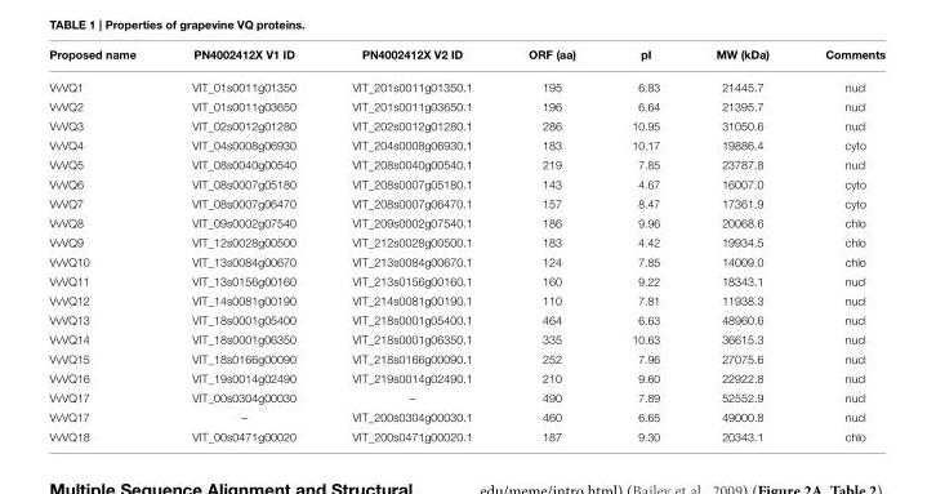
<table><thead><tr><td>Proposed name</td><td>PN4002412X V1 ID</td><td>PN4002412X V2 ID</td><td>ORF (aa)</td><td>pI</td><td>MW (kDa)</td><td>Comments</td></tr></thead><tbody><tr><td>VvVQ1</td><td>VIT_01s0011g01350</td><td>VIT_201s0011g01350.1</td><td>195</td><td>6.83</td><td>21445.7</td><td>nucl</td></tr><tr><td>VvVQ2</td><td>VIT_01s0011g03650</td><td>VIT_201s0011g03650.1</td><td>196</td><td>6.64</td><td>21395.7</td><td>nucl</td></tr><tr><td>VvVQ3</td><td>VIT_02s0012g01280</td><td>VIT_202s0012g01280.1</td><td>286</td><td>10.95</td><td>31050.6</td><td>nucl</td></tr><tr><td>VvVQ4</td><td>VIT_04s0008g06930</td><td>VIT_204s0008g06930.1</td><td>183</td><td>10.17</td><td>19886.4</td><td>cyto</td></tr><tr><td>VvVQ5</td><td>VIT_08s0040g00540</td><td>VIT_208s0040g00540.1</td><td>219</td><td>7.85</td><td>23787.8</td><td>nucl</td></tr><tr><td>VvVQ6</td><td>VIT_08s0007g05180</td><td>VIT_208s0007g05180.1</td><td>143</td><td>4.67</td><td>16007.0</td><td>cyto</td></tr><tr><td>VvVQ7</td><td>VIT_08s0007g06470</td><td>VIT_208s0007g06470.1</td><td>157</td><td>8.47</td><td>17361.9</td><td>cyto</td></tr><tr><td>VvVQ8</td><td>VIT_09s0002g07540</td><td>VIT_209s0002g07540.1</td><td>186</td><td>9.96</td><td>20068.6</td><td>chlo</td></tr><tr><td>VvVQ9</td><td>VIT_12s0028g00500</td><td>VIT_212s0028g00500.1</td><td>183</td><td>4.42</td><td>19934.5</td><td>chlo</td></tr><tr><td>VvVQ10</td><td>VIT_13s0084g00670</td><td>VIT_213s0084g00670.1</td><td>124</td><td>7.85</td><td>14009.0</td><td>chlo</td></tr><tr><td>VvVQ11</td><td>VIT_13s0156g00160</td><td>VIT_213s0156g00160.1</td><td>160</td><td>9.22</td><td>18343.1</td><td>nucl</td></tr><tr><td>VvVQ12</td><td>VIT_14s0081g00190</td><td>VIT_214s0081g00190.1</td><td>110</td><td>7.81</td><td>11938.3</td><td>nucl</td></tr><tr><td>VvVQ13</td><td>VIT_18s0001g05400</td><td>VIT_218s0001g05400.1</td><td>464</td><td>6.63</td><td>48960.6</td><td>nucl</td></tr><tr><td>VvVQ14</td><td>VIT_18s0001g06350</td><td>VIT_218s0001g06350.1</td><td>335</td><td>10.63</td><td>36615.3</td><td>nucl</td></tr><tr><td>VvVQ15</td><td>VIT_18s0166g00090</td><td>VIT_218s0166g00090.1</td><td>252</td><td>7.96</td><td>27075.6</td><td>nucl</td></tr><tr><td>VvVQ16</td><td>VIT_19s0014g02490</td><td>VIT_219s0014g02490.1</td><td>210</td><td>9.60</td><td>22922.8</td><td>nucl</td></tr><tr><td>VvVQ17</td><td>VIT_00s0304g00030</td><td>–</td><td>490</td><td>7.89</td><td>52552.9</td><td>nucl</td></tr><tr><td>VvVQ17</td><td>–</td><td>VIT_200s0304g00030.1</td><td>460</td><td>6.65</td><td>49000.8</td><td>nucl</td></tr><tr><td>VvVQ18</td><td>VIT_00s0471g00020</td><td>VIT_200s0471g00020.1</td><td>187</td><td>9.30</td><td>20343.1</td><td>chlo</td></tr></tbody></table>